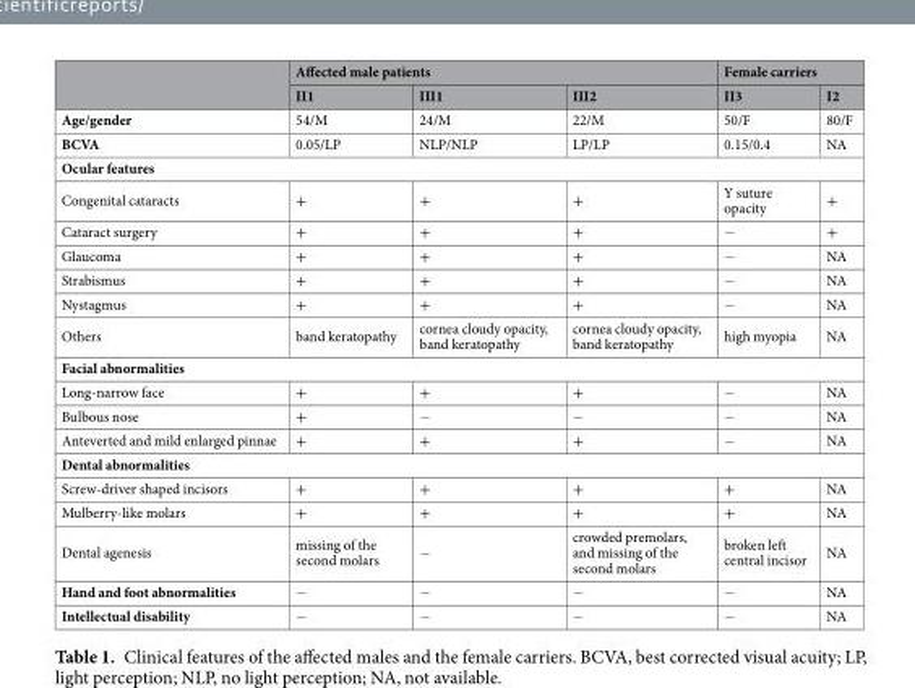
<table><thead><tr><td rowspan="2"></td><td colspan="3">Affected male patients</td><td colspan="2">Female carriers</td></tr><tr><td>II1</td><td>III1</td><td>III2</td><td>II3</td><td>I2</td></tr></thead><tbody><tr><td>Age/gender</td><td>54/M</td><td>24/M</td><td>22/M</td><td>50/F</td><td>80/F</td></tr><tr><td>BCVA</td><td>0.05/LP</td><td>NLP/NLP</td><td>LP/LP</td><td>0.15/0.4</td><td>NA</td></tr><tr><td colspan="6">Ocular features</td></tr><tr><td>Congenital cataracts</td><td>+</td><td>+</td><td>+</td><td>Y suture opacity</td><td>+</td></tr><tr><td>Cataract surgery</td><td>+</td><td>+</td><td>+</td><td>−</td><td>+</td></tr><tr><td>Glaucoma</td><td>+</td><td>+</td><td>+</td><td>−</td><td>NA</td></tr><tr><td>Strabismus</td><td>+</td><td>+</td><td>+</td><td>−</td><td>NA</td></tr><tr><td>Nystagmus</td><td>+</td><td>+</td><td>+</td><td>−</td><td>NA</td></tr><tr><td>Others</td><td>band keratopathy</td><td>cornea cloudy opacity, band keratopathy</td><td>cornea cloudy opacity, band keratopathy</td><td>high myopia</td><td>NA</td></tr><tr><td colspan="6">Facial abnormalities</td></tr><tr><td>Long-narrow face</td><td>+</td><td>+</td><td>+</td><td>−</td><td>NA</td></tr><tr><td>Bulbous nose</td><td>+</td><td>−</td><td>−</td><td>−</td><td>NA</td></tr><tr><td>Anteverted and mild enlarged pinnae</td><td>+</td><td>+</td><td>+</td><td>−</td><td>NA</td></tr><tr><td colspan="6">Dental abnormalities</td></tr><tr><td>Screw-driver shaped incisors</td><td>+</td><td>+</td><td>+</td><td>+</td><td>NA</td></tr><tr><td>Mulberry-like molars</td><td>+</td><td>+</td><td>+</td><td>+</td><td>NA</td></tr><tr><td>Dental agenesis</td><td>missing of the second molars</td><td>−</td><td>crowded premolars, and missing of the second molars</td><td>broken left central incisor</td><td>NA</td></tr><tr><td>Hand and foot abnormalities</td><td>−</td><td>−</td><td>−</td><td>−</td><td>NA</td></tr><tr><td>Intellectual disability</td><td>−</td><td>−</td><td>−</td><td>−</td><td>NA</td></tr></tbody></table>